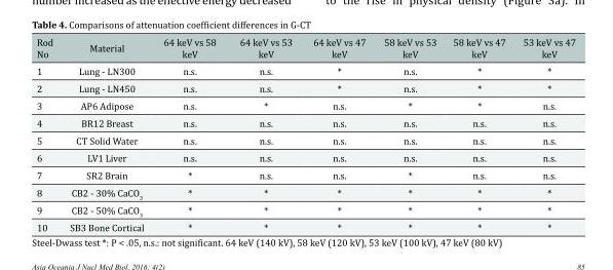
<table><thead><tr><td>Rod No</td><td>Material</td><td>64 keV vs 58 keV</td><td>64 keV vs 53 keV</td><td>64 keV vs 47 keV</td><td>58 keV vs 53 keV</td><td>58 keV vs 47 keV</td><td>53 keV vs 47 keV</td></tr></thead><tbody><tr><td>1</td><td>Lung - LN300</td><td>n.s.</td><td>n.s.</td><td>*</td><td>n.s.</td><td>*</td><td>*</td></tr><tr><td>2</td><td>Lung - LN450</td><td>n.s.</td><td>n.s.</td><td>*</td><td>n.s.</td><td>*</td><td>*</td></tr><tr><td>3</td><td>AP6 Adipose</td><td>n.s.</td><td>*</td><td>n.s.</td><td>*</td><td>*</td><td>n.s.</td></tr><tr><td>4</td><td>BR12 Breast</td><td>n.s.</td><td>n.s.</td><td>n.s.</td><td>n.s.</td><td>n.s.</td><td>n.s.</td></tr><tr><td>5</td><td>CT Solid Water</td><td>n.s.</td><td>n.s.</td><td>n.s.</td><td>n.s.</td><td>n.s.</td><td>n.s.</td></tr><tr><td>6</td><td>LV1 Liver</td><td>n.s.</td><td>n.s.</td><td>n.s.</td><td>n.s.</td><td>n.s.</td><td>n.s.</td></tr><tr><td>7</td><td>SR2 Brain</td><td>*</td><td>n.s.</td><td>n.s.</td><td>*</td><td>n.s.</td><td>n.s.</td></tr><tr><td>8</td><td>CB2 - 30% CaCO<sub>3</sub></td><td>*</td><td>*</td><td>*</td><td>*</td><td>*</td><td>*</td></tr><tr><td>9</td><td>CB2 - 50% CaCO<sub>3</sub></td><td>*</td><td>*</td><td>*</td><td>*</td><td>*</td><td>*</td></tr><tr><td>10</td><td>SB3 Bone Cortical</td><td>*</td><td>*</td><td>*</td><td>*</td><td>*</td><td>*</td></tr></tbody></table>